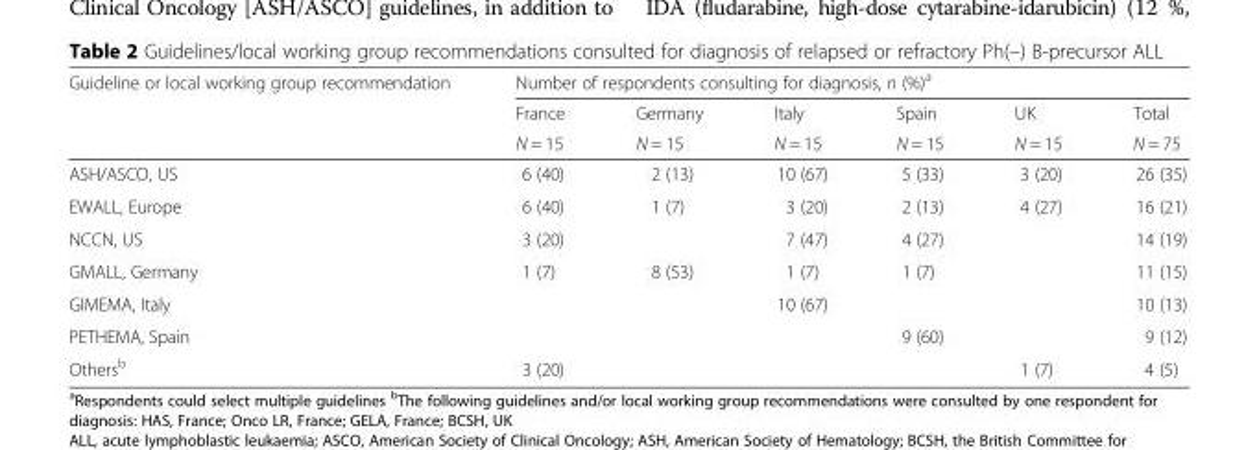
<table><thead><tr><td rowspan="3">Guideline or local working group recommendation</td><td colspan="6">Number of respondents consulting for diagnosis, n (%)<sup>a</sup></td></tr><tr><td rowspan="2">France N = 15</td><td rowspan="2">Germany N = 15</td><td rowspan="2">Italy N = 15</td><td rowspan="2">Spain N = 15</td><td rowspan="2">UK N = 15</td><td rowspan="2">Total N = 75</td></tr><tr></tr></thead><tbody><tr><td>ASH/ASCO, US</td><td>6 (40)</td><td>2 (13)</td><td>10 (67)</td><td>5 (33)</td><td>3 (20)</td><td>26 (35)</td></tr><tr><td>EWALL, Europe</td><td>6 (40)</td><td>1 (7)</td><td>3 (20)</td><td>2 (13)</td><td>4 (27)</td><td>16 (21)</td></tr><tr><td>NCCN, US</td><td>3 (20)</td><td></td><td>7 (47)</td><td>4 (27)</td><td></td><td>14 (19)</td></tr><tr><td>GMALL, Germany</td><td>1 (7)</td><td>8 (53)</td><td>1 (7)</td><td>1 (7)</td><td></td><td>11 (15)</td></tr><tr><td>GIMEMA, Italy</td><td></td><td></td><td>10 (67)</td><td></td><td></td><td>10 (13)</td></tr><tr><td>PETHEMA, Spain</td><td></td><td></td><td></td><td>9 (60)</td><td></td><td>9 (12)</td></tr><tr><td>Others<sup>b</sup></td><td>3 (20)</td><td></td><td></td><td></td><td>1 (7)</td><td>4 (5)</td></tr></tbody></table>